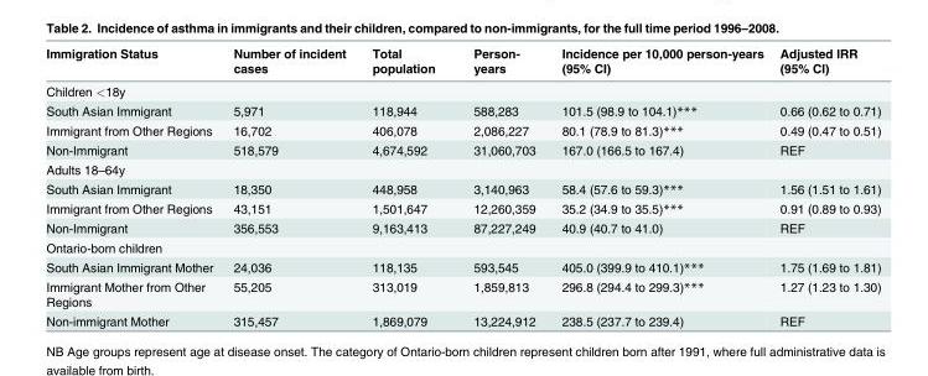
<table><thead><tr><td>Immigration Status</td><td>Number of incident cases</td><td>Total population</td><td>Person- years</td><td>Incidence per 10,000 person-years (95% CI)</td><td>Adjusted IRR (95% CI)</td></tr></thead><tbody><tr><td colspan="6">Children &lt;18y</td></tr><tr><td>South Asian Immigrant</td><td>5,971</td><td>118,944</td><td>588,283</td><td>101.5 (98.9 to 104.1)***</td><td>0.66 (0.62 to 0.71)</td></tr><tr><td>Immigrant from Other Regions</td><td>16,702</td><td>406,078</td><td>2,086,227</td><td>80.1 (78.9 to 81.3)***</td><td>0.49 (0.47 to 0.51)</td></tr><tr><td>Non-Immigrant</td><td>518,579</td><td>4,674,592</td><td>31,060,703</td><td>167.0 (166.5 to 167.4)</td><td>REF</td></tr><tr><td colspan="6">Adults 18–64y</td></tr><tr><td>South Asian Immigrant</td><td>18,350</td><td>448,958</td><td>3,140,963</td><td>58.4 (57.6 to 59.3)***</td><td>1.56 (1.51 to 1.61)</td></tr><tr><td>Immigrant from Other Regions</td><td>43,151</td><td>1,501,647</td><td>12,260,359</td><td>35.2 (34.9 to 35.5)***</td><td>0.91 (0.89 to 0.93)</td></tr><tr><td>Non-Immigrant</td><td>356,553</td><td>9,163,413</td><td>87,227,249</td><td>40.9 (40.7 to 41.0)</td><td>REF</td></tr><tr><td colspan="6">Ontario-born children</td></tr><tr><td>South Asian Immigrant Mother</td><td>24,036</td><td>118,135</td><td>593,545</td><td>405.0 (399.9 to 410.1)***</td><td>1.75 (1.69 to 1.81)</td></tr><tr><td>Immigrant Mother from Other Regions</td><td>55,205</td><td>313,019</td><td>1,859,813</td><td>296.8 (294.4 to 299.3)***</td><td>1.27 (1.23 to 1.30)</td></tr><tr><td>Non-immigrant Mother</td><td>315,457</td><td>1,869,079</td><td>13,224,912</td><td>238.5 (237.7 to 239.4)</td><td>REF</td></tr></tbody></table>